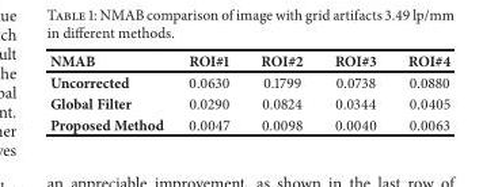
<table><thead><tr><td>NMAB</td><td>ROI#1</td><td>ROI#2</td><td>ROI#3</td><td>ROI#4</td></tr></thead><tbody><tr><td>Uncorrected</td><td>0.0630</td><td>0.1799</td><td>0.0738</td><td>0.0880</td></tr><tr><td>Global Filter</td><td>0.0290</td><td>0.0824</td><td>0.0344</td><td>0.0405</td></tr><tr><td>Proposed Method</td><td>0.0047</td><td>0.0098</td><td>0.0040</td><td>0.0063</td></tr></tbody></table>